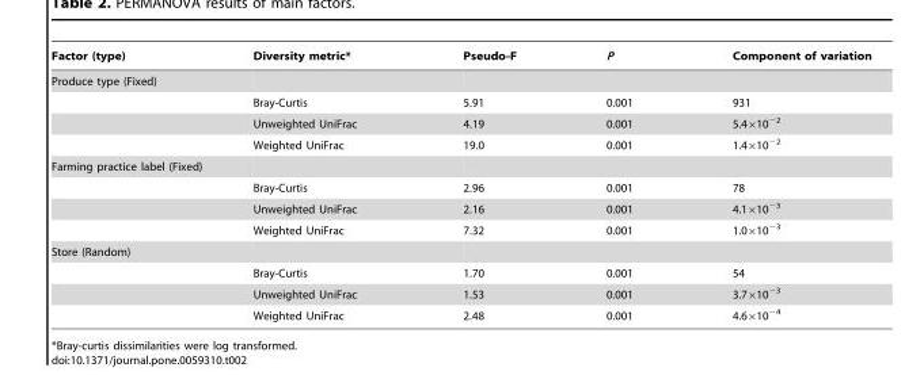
<table><thead><tr><td>Factor (type)</td><td>Diversity metric*</td><td>Pseudo-F</td><td>P</td><td>Component of variation</td></tr></thead><tbody><tr><td colspan="5">Produce type (Fixed)</td></tr><tr><td></td><td>Bray-Curtis</td><td>5.91</td><td>0.001</td><td>931</td></tr><tr><td></td><td>Unweighted UniFrac</td><td>4.19</td><td>0.001</td><td>5.4×10<sup>−2</sup></td></tr><tr><td></td><td>Weighted UniFrac</td><td>19.0</td><td>0.001</td><td>1.4×10<sup>−2</sup></td></tr><tr><td colspan="5">Farming practice label (Fixed)</td></tr><tr><td></td><td>Bray-Curtis</td><td>2.96</td><td>0.001</td><td>78</td></tr><tr><td></td><td>Unweighted UniFrac</td><td>2.16</td><td>0.001</td><td>4.1×10<sup>−3</sup></td></tr><tr><td></td><td>Weighted UniFrac</td><td>7.32</td><td>0.001</td><td>1.0×10<sup>−3</sup></td></tr><tr><td colspan="5">Store (Random)</td></tr><tr><td></td><td>Bray-Curtis</td><td>1.70</td><td>0.001</td><td>54</td></tr><tr><td></td><td>Unweighted UniFrac</td><td>1.53</td><td>0.001</td><td>3.7×10<sup>−3</sup></td></tr><tr><td></td><td>Weighted UniFrac</td><td>2.48</td><td>0.001</td><td>4.6×10<sup>−4</sup></td></tr></tbody></table>